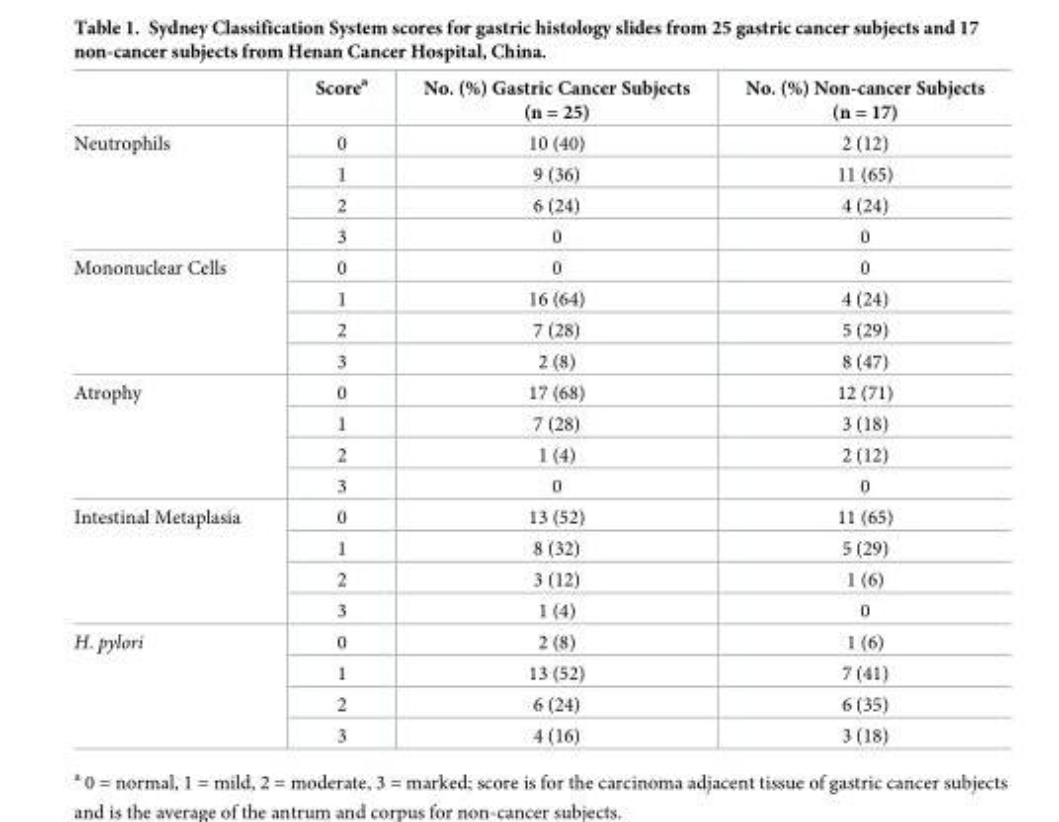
<table><thead><tr><td></td><td>Score<sup>a</sup></td><td>No. (%) Gastric Cancer Subjects (n = 25)</td><td>No. (%) Non-cancer Subjects (n = 17)</td></tr></thead><tbody><tr><td rowspan="4">Neutrophils</td><td>0</td><td>10 (40)</td><td>2 (12)</td></tr><tr><td>1</td><td>9 (36)</td><td>11 (65)</td></tr><tr><td>2</td><td>6 (24)</td><td>4 (24)</td></tr><tr><td>3</td><td>0</td><td>0</td></tr><tr><td rowspan="4">Mononuclear Cells</td><td>0</td><td>0</td><td>0</td></tr><tr><td>1</td><td>16 (64)</td><td>4 (24)</td></tr><tr><td>2</td><td>7 (28)</td><td>5 (29)</td></tr><tr><td>3</td><td>2 (8)</td><td>8 (47)</td></tr><tr><td rowspan="4">Atrophy</td><td>0</td><td>17 (68)</td><td>12 (71)</td></tr><tr><td>1</td><td>7 (28)</td><td>3 (18)</td></tr><tr><td>2</td><td>1 (4)</td><td>2 (12)</td></tr><tr><td>3</td><td>0</td><td>0</td></tr><tr><td rowspan="4">Intestinal Metaplasia</td><td>0</td><td>13 (52)</td><td>11 (65)</td></tr><tr><td>1</td><td>8 (32)</td><td>5 (29)</td></tr><tr><td>2</td><td>3 (12)</td><td>1 (6)</td></tr><tr><td>3</td><td>1 (4)</td><td>0</td></tr><tr><td rowspan="4">H. pylori</td><td>0</td><td>2 (8)</td><td>1 (6)</td></tr><tr><td>1</td><td>13 (52)</td><td>7 (41)</td></tr><tr><td>2</td><td>6 (24)</td><td>6 (35)</td></tr><tr><td>3</td><td>4 (16)</td><td>3 (18)</td></tr></tbody></table>